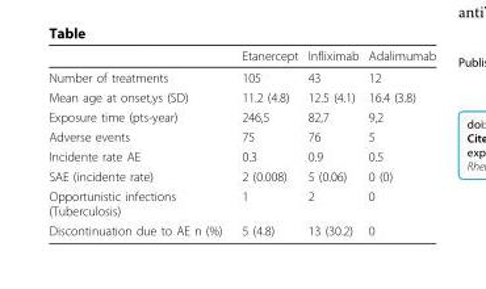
<table><thead><tr><td></td><td>Etanercept</td><td>Infliximab</td><td>Adalimumab</td></tr></thead><tbody><tr><td>Number of treatments</td><td>105</td><td>43</td><td>12</td></tr><tr><td>Mean age at onset,ys (SD)</td><td>11.2 (4.8)</td><td>12.5 (4.1)</td><td>16.4 (3.8)</td></tr><tr><td>Exposure time (pts-year)</td><td>246,5</td><td>82,7</td><td>9,2</td></tr><tr><td>Adverse events</td><td>75</td><td>76</td><td>5</td></tr><tr><td>Incidente rate AE</td><td>0.3</td><td>0.9</td><td>0.5</td></tr><tr><td>SAE (incidente rate)</td><td>2 (0.008)</td><td>5 (0.06)</td><td>0 (0)</td></tr><tr><td>Opportunistic infections (Tuberculosis)</td><td>1</td><td>2</td><td>0</td></tr><tr><td>Discontinuation due to AE n (%)</td><td>5 (4.8)</td><td>13 (30.2)</td><td>0</td></tr></tbody></table>